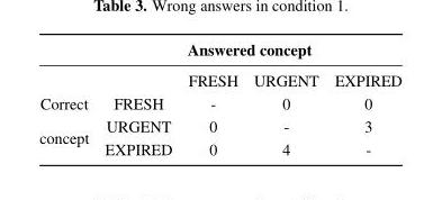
<table><thead><tr><td colspan="5">Answered concept</td></tr><tr><td></td><td></td><td>FRESH</td><td>URGENT</td><td>EXPIRED</td></tr></thead><tbody><tr><td>Correct</td><td>FRESH</td><td>-</td><td>0</td><td>0</td></tr><tr><td rowspan="2">concept</td><td>URGENT</td><td>0</td><td>-</td><td>3</td></tr><tr><td>EXPIRED</td><td>0</td><td>4</td><td>-</td></tr></tbody></table>